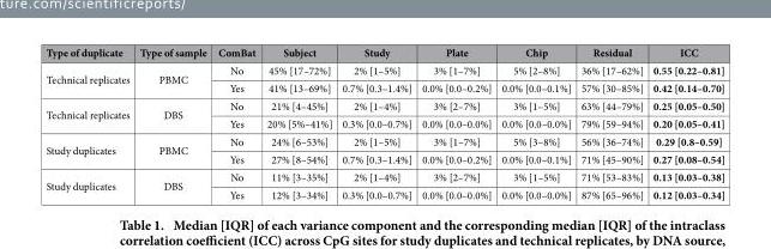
<table><thead><tr><td>Type of duplicate</td><td>Type of sample</td><td>ComBat</td><td>Subject</td><td>Study</td><td>Plate</td><td>Chip</td><td>Residual</td><td>ICC</td></tr></thead><tbody><tr><td rowspan="2">Technical replicates</td><td rowspan="2">PBMC</td><td>No</td><td>45% [17–72%]</td><td>2% [1–5%]</td><td>3% [1–7%]</td><td>5% [2–8%]</td><td>36% [17–62%]</td><td>0.55 [0.22–0.81]</td></tr><tr><td>Yes</td><td>41% [13–69%]</td><td>0.7% [0.3–1.4%]</td><td>0.0% [0.0–0.2%]</td><td>0.0% [0.0–0.1%]</td><td>57% [30–85%]</td><td>0.42 [0.14–0.70]</td></tr><tr><td rowspan="2">Technical replicates</td><td rowspan="2">DBS</td><td>No</td><td>21% [4–45%]</td><td>2% [1–4%]</td><td>3% [2–7%]</td><td>3% [1–5%]</td><td>63% [44–79%]</td><td>0.25 [0.05–0.50]</td></tr><tr><td>Yes</td><td>20% [5%–41%]</td><td>0.3% [0.0–0.7%]</td><td>0.0% [0.0–0.0%]</td><td>0.0% [0.0–0.0%]</td><td>79% [59–94%]</td><td>0.20 [0.05–0.41]</td></tr><tr><td rowspan="2">Study duplicates</td><td rowspan="2">PBMC</td><td>No</td><td>24% [6–53%]</td><td>2% [1–5%]</td><td>3% [1–7%]</td><td>5% [3–8%]</td><td>56% [36–74%]</td><td>0.29 [0.8–0.59]</td></tr><tr><td>Yes</td><td>27% [8–54%]</td><td>0.7% [0.3–1.4%]</td><td>0.0% [0.0–0.2%]</td><td>0.0% [0.0–0.1%]</td><td>71% [45–90%]</td><td>0.27 [0.08–0.54]</td></tr><tr><td rowspan="2">Study duplicates</td><td rowspan="2">DBS</td><td>No</td><td>11% [3–35%]</td><td>2% [1–4%]</td><td>3% [2–7%]</td><td>3% [1–5%]</td><td>71% [53–83%]</td><td>0.13 [0.03–0.38]</td></tr><tr><td>Yes</td><td>12% [3–34%]</td><td>0.3% [0.0–0.7%]</td><td>0.0% [0.0–0.0%]</td><td>0.0% [0.0–0.0%]</td><td>87% [65–96%]</td><td>0.12 [0.03–0.34]</td></tr></tbody></table>